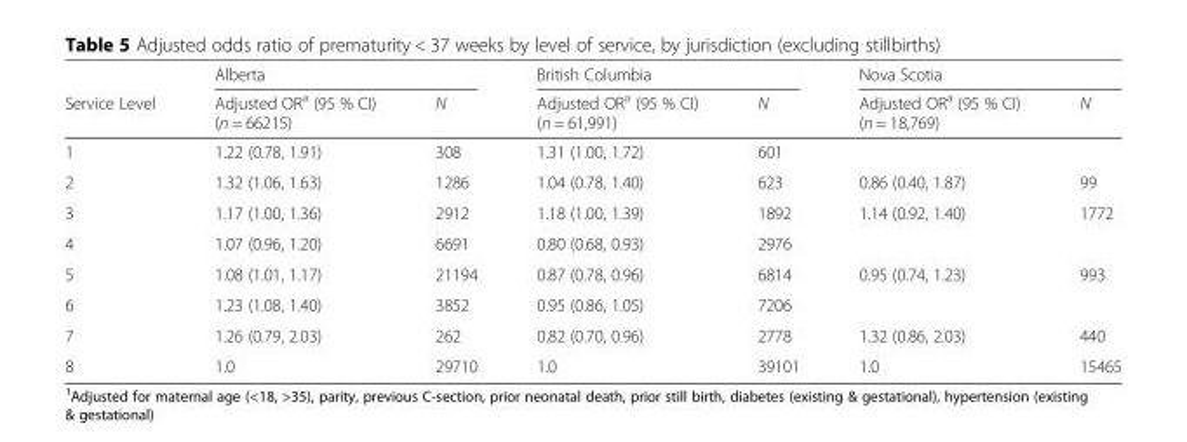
<table><thead><tr><td rowspan="2">Service Level</td><td colspan="2">Alberta</td><td colspan="2">British Columbia</td><td colspan="2">Nova Scotia</td></tr><tr><td>Adjusted OR<sup>a</sup> (95 % CI) (n = 66215)</td><td>N</td><td>Adjusted OR<sup>a</sup> (95 % CI) (n = 61,991)</td><td>N</td><td>Adjusted OR<sup>a</sup> (95 % CI) (n = 18,769)</td><td>N</td></tr></thead><tbody><tr><td>1</td><td>1.22 (0.78, 1.91)</td><td>308</td><td>1.31 (1.00, 1.72)</td><td>601</td><td colspan="2"></td></tr><tr><td>2</td><td>1.32 (1.06, 1.63)</td><td>1286</td><td>1.04 (0.78, 1.40)</td><td>623</td><td>0.86 (0.40, 1.87)</td><td>99</td></tr><tr><td>3</td><td>1.17 (1.00, 1.36)</td><td>2912</td><td>1.18 (1.00, 1.39)</td><td>1892</td><td>1.14 (0.92, 1.40)</td><td>1772</td></tr><tr><td>4</td><td>1.07 (0.96, 1.20)</td><td>6691</td><td>0.80 (0.68, 0.93)</td><td>2976</td><td colspan="2"></td></tr><tr><td>5</td><td>1.08 (1.01, 1.17)</td><td>21194</td><td>0.87 (0.78, 0.96)</td><td>6814</td><td>0.95 (0.74, 1.23)</td><td>993</td></tr><tr><td>6</td><td>1.23 (1.08, 1.40)</td><td>3852</td><td>0.95 (0.86, 1.05)</td><td>7206</td><td colspan="2"></td></tr><tr><td>7</td><td>1.26 (0.79, 2.03)</td><td>262</td><td>0.82 (0.70, 0.96)</td><td>2778</td><td>1.32 (0.86, 2.03)</td><td>440</td></tr><tr><td>8</td><td>1.0</td><td>29710</td><td>1.0</td><td>39101</td><td>1.0</td><td>15465</td></tr></tbody></table>